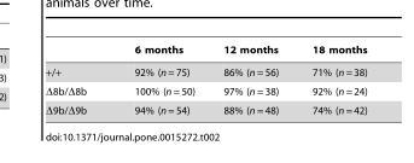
<table><thead><tr><td></td><td>6 months</td><td>12 months</td><td>18 months</td></tr></thead><tbody><tr><td>+/+</td><td>92% (n = 75)</td><td>86% (n = 56)</td><td>71% (n = 38)</td></tr><tr><td>Δ8b/Δ8b</td><td>100% (n = 50)</td><td>97% (n = 38)</td><td>92% (n = 24)</td></tr><tr><td>Δ9b/Δ9b</td><td>94% (n = 54)</td><td>88% (n = 48)</td><td>74% (n = 42)</td></tr></tbody></table>